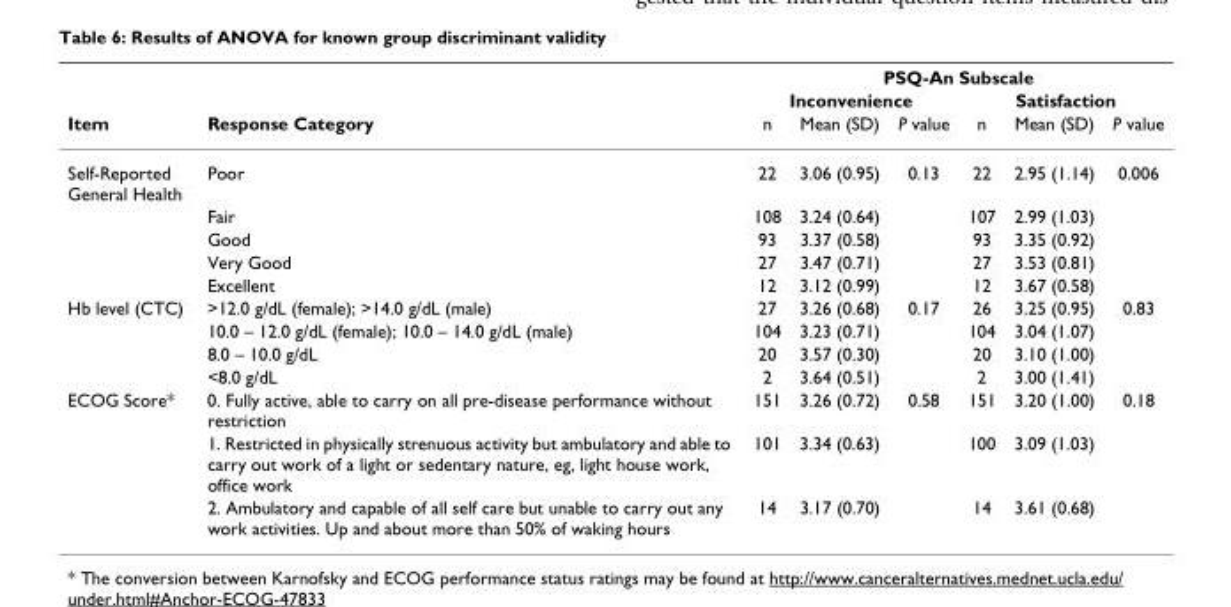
<table><thead><tr><td rowspan="3">Item</td><td rowspan="3">Response Category</td><td colspan="6">PSQ-An Subscale</td></tr><tr><td colspan="3">Inconvenience</td><td colspan="3">Satisfaction</td></tr><tr><td>n</td><td>Mean (SD)</td><td>P value</td><td>n</td><td>Mean (SD)</td><td>P value</td></tr></thead><tbody><tr><td rowspan="5">Self-Reported General Health</td><td>Poor</td><td>22</td><td>3.06 (0.95)</td><td>0.13</td><td>22</td><td>2.95 (1.14)</td><td>0.006</td></tr><tr><td>Fair</td><td>108</td><td>3.24 (0.64)</td><td></td><td>107</td><td>2.99 (1.03)</td><td></td></tr><tr><td>Good</td><td>93</td><td>3.37 (0.58)</td><td></td><td>93</td><td>3.35 (0.92)</td><td></td></tr><tr><td>Very Good</td><td>27</td><td>3.47 (0.71)</td><td></td><td>27</td><td>3.53 (0.81)</td><td></td></tr><tr><td>Excellent</td><td>12</td><td>3.12 (0.99)</td><td></td><td>12</td><td>3.67 (0.58)</td><td></td></tr><tr><td rowspan="4">Hb level (CTC)</td><td>&gt;12.0 g/dL (female); &gt;14.0 g/dL (male)</td><td>27</td><td>3.26 (0.68)</td><td>0.17</td><td>26</td><td>3.25 (0.95)</td><td>0.83</td></tr><tr><td>10.0 – 12.0 g/dL (female); 10.0 – 14.0 g/dL (male)</td><td>104</td><td>3.23 (0.71)</td><td></td><td>104</td><td>3.04 (1.07)</td><td></td></tr><tr><td>8.0 – 10.0 g/dL</td><td>20</td><td>3.57 (0.30)</td><td></td><td>20</td><td>3.10 (1.00)</td><td></td></tr><tr><td>&lt;8.0 g/dL</td><td>2</td><td>3.64 (0.51)</td><td></td><td>2</td><td>3.00 (1.41)</td><td></td></tr><tr><td rowspan="3">ECOG Score*</td><td>0. Fully active, able to carry on all pre-disease performance without restriction</td><td>151</td><td>3.26 (0.72)</td><td>0.58</td><td>151</td><td>3.20 (1.00)</td><td>0.18</td></tr><tr><td>1. Restricted in physically strenuous activity but ambulatory and able to carry out work of a light or sedentary nature, eg, light house work, office work</td><td>101</td><td>3.34 (0.63)</td><td></td><td>100</td><td>3.09 (1.03)</td><td></td></tr><tr><td>2. Ambulatory and capable of all self care but unable to carry out any work activities. Up and about more than 50% of waking hours</td><td>14</td><td>3.17 (0.70)</td><td></td><td>14</td><td>3.61 (0.68)</td><td></td></tr></tbody></table>